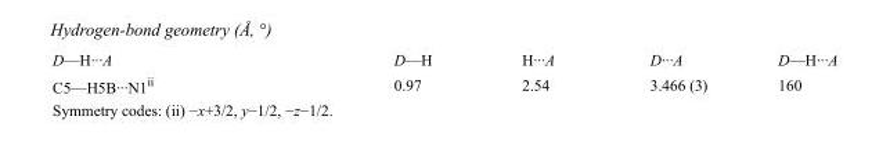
<table><tbody><tr><td>D—H···A</td><td>D—H</td><td>H···A</td><td>D···A</td><td>D—H···A</td></tr><tr><td>C5—H5B···N1<sup>ii</sup></td><td>0.97</td><td>2.54</td><td>3.466 (3)</td><td>160</td></tr></tbody></table>